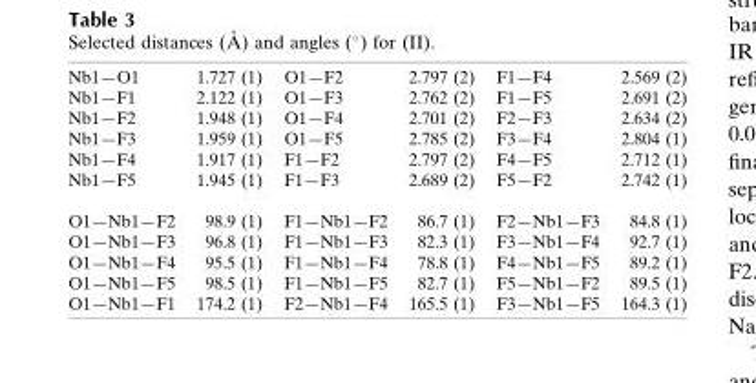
<table><tbody><tr><td>Nb1—O1</td><td>1.727 (1)</td><td>O1—F2</td><td>2.797 (2)</td><td>F1—F4</td><td>2.569 (2)</td></tr><tr><td>Nb1—F1</td><td>2.122 (1)</td><td>O1—F3</td><td>2.762 (2)</td><td>F1—F5</td><td>2.691 (2)</td></tr><tr><td>Nb1—F2</td><td>1.948 (1)</td><td>O1—F4</td><td>2.701 (2)</td><td>F2—F3</td><td>2.634 (2)</td></tr><tr><td>Nb1—F3</td><td>1.959 (1)</td><td>O1—F5</td><td>2.785 (2)</td><td>F3—F4</td><td>2.804 (1)</td></tr><tr><td>Nb1—F4</td><td>1.917 (1)</td><td>F1—F2</td><td>2.797 (2)</td><td>F4—F5</td><td>2.712 (1)</td></tr><tr><td>Nb1—F5</td><td>1.945 (1)</td><td>F1—F3</td><td>2.689 (2)</td><td>F5—F2</td><td>2.742 (1)</td></tr><tr><td>O1—Nb1—F2</td><td>98.9 (1)</td><td>F1—Nb1—F2</td><td>86.7 (1)</td><td>F2—Nb1—F3</td><td>84.8 (1)</td></tr><tr><td>O1—Nb1—F3</td><td>96.8 (1)</td><td>F1—Nb1—F3</td><td>82.3 (1)</td><td>F3—Nb1—F4</td><td>92.7 (1)</td></tr><tr><td>O1—Nb1—F4</td><td>95.5 (1)</td><td>F1—Nb1—F4</td><td>78.8 (1)</td><td>F4—Nb1—F5</td><td>89.2 (1)</td></tr><tr><td>O1—Nb1—F5</td><td>98.5 (1)</td><td>F1—Nb1—F5</td><td>82.7 (1)</td><td>F5—Nb1—F2</td><td>89.5 (1)</td></tr><tr><td>O1—Nb1—F1</td><td>174.2 (1)</td><td>F2—Nb1—F4</td><td>165.5 (1)</td><td>F3—Nb1—F5</td><td>164.3 (1)</td></tr></tbody></table>